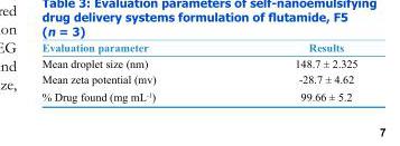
<table><thead><tr><td>Evaluation parameter</td><td>Results</td></tr></thead><tbody><tr><td>Mean droplet size (nm)</td><td>148.7 ± 2.325</td></tr><tr><td>Mean zeta potential (mv)</td><td>-28.7 ± 4.62</td></tr><tr><td>% Drug found (mg mL<sup>-1</sup>)</td><td>99.66 ± 5.2</td></tr></tbody></table>